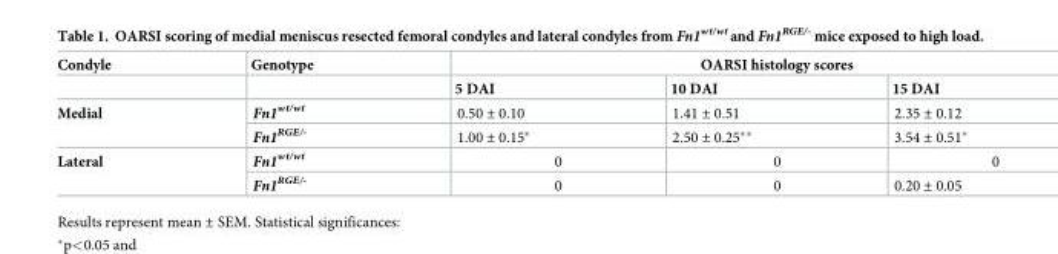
<table><thead><tr><td rowspan="2">Condyle</td><td rowspan="2">Genotype</td><td colspan="3">OARSI histology scores</td></tr><tr><td>5 DAI</td><td>10 DAI</td><td>15 DAI</td></tr></thead><tbody><tr><td rowspan="2">Medial</td><td>Fn1<sup>wt/wt</sup></td><td>0.50 ± 0.10</td><td>1.41 ± 0.51</td><td>2.35 ± 0.12</td></tr><tr><td>Fn1<sup>RGE/-</sup></td><td>1.00 ± 0.15*</td><td>2.50 ± 0.25**</td><td>3.54 ± 0.51*</td></tr><tr><td rowspan="2">Lateral</td><td>Fn1<sup>wt/wt</sup></td><td>0</td><td>0</td><td>0</td></tr><tr><td>Fn1<sup>RGE/-</sup></td><td>0</td><td>0</td><td>0.20 ± 0.05</td></tr></tbody></table>